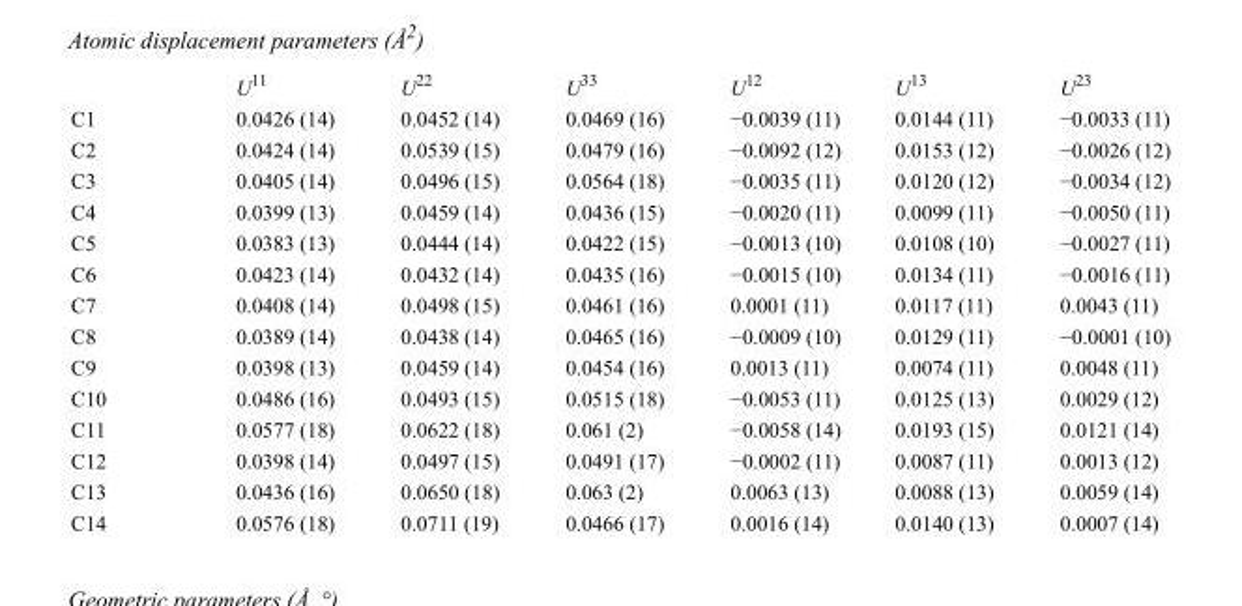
<table><thead><tr><td></td><td>U<sup>11</sup></td><td>U<sup>22</sup></td><td>U<sup>33</sup></td><td>U<sup>12</sup></td><td>U<sup>13</sup></td><td>U<sup>23</sup></td></tr></thead><tbody><tr><td>C1</td><td>0.0426 (14)</td><td>0.0452 (14)</td><td>0.0469 (16)</td><td>−0.0039 (11)</td><td>0.0144 (11)</td><td>−0.0033 (11)</td></tr><tr><td>C2</td><td>0.0424 (14)</td><td>0.0539 (15)</td><td>0.0479 (16)</td><td>−0.0092 (12)</td><td>0.0153 (12)</td><td>−0.0026 (12)</td></tr><tr><td>C3</td><td>0.0405 (14)</td><td>0.0496 (15)</td><td>0.0564 (18)</td><td>−0.0035 (11)</td><td>0.0120 (12)</td><td>−0.0034 (12)</td></tr><tr><td>C4</td><td>0.0399 (13)</td><td>0.0459 (14)</td><td>0.0436 (15)</td><td>−0.0020 (11)</td><td>0.0099 (11)</td><td>−0.0050 (11)</td></tr><tr><td>C5</td><td>0.0383 (13)</td><td>0.0444 (14)</td><td>0.0422 (15)</td><td>−0.0013 (10)</td><td>0.0108 (10)</td><td>−0.0027 (11)</td></tr><tr><td>C6</td><td>0.0423 (14)</td><td>0.0432 (14)</td><td>0.0435 (16)</td><td>−0.0015 (10)</td><td>0.0134 (11)</td><td>−0.0016 (11)</td></tr><tr><td>C7</td><td>0.0408 (14)</td><td>0.0498 (15)</td><td>0.0461 (16)</td><td>0.0001 (11)</td><td>0.0117 (11)</td><td>0.0043 (11)</td></tr><tr><td>C8</td><td>0.0389 (14)</td><td>0.0438 (14)</td><td>0.0465 (16)</td><td>−0.0009 (10)</td><td>0.0129 (11)</td><td>−0.0001 (10)</td></tr><tr><td>C9</td><td>0.0398 (13)</td><td>0.0459 (14)</td><td>0.0454 (16)</td><td>0.0013 (11)</td><td>0.0074 (11)</td><td>0.0048 (11)</td></tr><tr><td>C10</td><td>0.0486 (16)</td><td>0.0493 (15)</td><td>0.0515 (18)</td><td>−0.0053 (11)</td><td>0.0125 (13)</td><td>0.0029 (12)</td></tr><tr><td>C11</td><td>0.0577 (18)</td><td>0.0622 (18)</td><td>0.061 (2)</td><td>−0.0058 (14)</td><td>0.0193 (15)</td><td>0.0121 (14)</td></tr><tr><td>C12</td><td>0.0398 (14)</td><td>0.0497 (15)</td><td>0.0491 (17)</td><td>−0.0002 (11)</td><td>0.0087 (11)</td><td>0.0013 (12)</td></tr><tr><td>C13</td><td>0.0436 (16)</td><td>0.0650 (18)</td><td>0.063 (2)</td><td>0.0063 (13)</td><td>0.0088 (13)</td><td>0.0059 (14)</td></tr><tr><td>C14</td><td>0.0576 (18)</td><td>0.0711 (19)</td><td>0.0466 (17)</td><td>0.0016 (14)</td><td>0.0140 (13)</td><td>0.0007 (14)</td></tr></tbody></table>